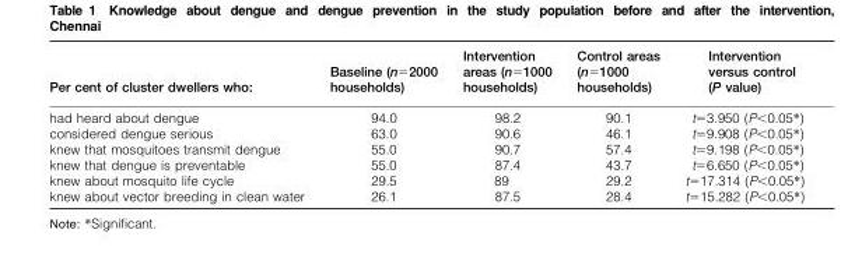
<table><thead><tr><td>Per cent of cluster dwellers who:</td><td>Baseline (n=2000 households)</td><td>Intervention areas (n=1000 households)</td><td>Control areas (n=1000 households)</td><td>Intervention versus control (P value)</td></tr></thead><tbody><tr><td>had heard about dengue</td><td>94.0</td><td>98.2</td><td>90.1</td><td>t=3.950 (P&lt;0.05*)</td></tr><tr><td>considered dengue serious</td><td>63.0</td><td>90.6</td><td>46.1</td><td>t=9.908 (P&lt;0.05*)</td></tr><tr><td>knew that mosquitoes transmit dengue</td><td>55.0</td><td>90.7</td><td>57.4</td><td>t=9.198 (P&lt;0.05*)</td></tr><tr><td>knew that dengue is preventable</td><td>55.0</td><td>87.4</td><td>43.7</td><td>t=6.650 (P&lt;0.05*)</td></tr><tr><td>knew about mosquito life cycle</td><td>29.5</td><td>89</td><td>29.2</td><td>t=17.314 (P&lt;0.05*)</td></tr><tr><td>knew about vector breeding in clean water</td><td>26.1</td><td>87.5</td><td>28.4</td><td>t=15.282 (P&lt;0.05*)</td></tr></tbody></table>